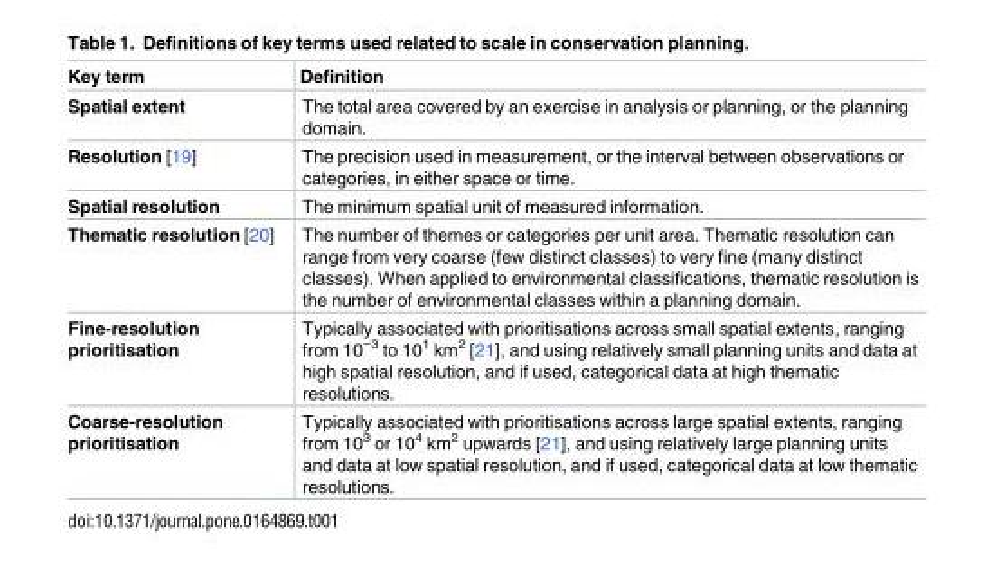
<table><thead><tr><td>Key term</td><td>Definition</td></tr></thead><tbody><tr><td>Spatial extent</td><td>The total area covered by an exercise in analysis or planning, or the planning domain.</td></tr><tr><td>Resolution [19]</td><td>The precision used in measurement, or the interval between observations or categories, in either space or time.</td></tr><tr><td>Spatial resolution</td><td>The minimum spatial unit of measured information.</td></tr><tr><td>Thematic resolution [20]</td><td>The number of themes or categories per unit area. Thematic resolution can range from very coarse (few distinct classes) to very fine (many distinct classes). When applied to environmental classifications, thematic resolution is the number of environmental classes within a planning domain.</td></tr><tr><td>Fine-resolution prioritisation</td><td>Typically associated with prioritisations across small spatial extents, ranging from 10<sup>−3</sup> to 10<sup>1</sup> km<sup>2</sup> [21], and using relatively small planning units and data at high spatial resolution, and if used, categorical data at high thematic resolutions.</td></tr><tr><td>Coarse-resolution prioritisation</td><td>Typically associated with prioritisations across large spatial extents, ranging from 10<sup>3</sup> or 10<sup>4</sup> km<sup>2</sup> upwards [21], and using relatively large planning units and data at low spatial resolution, and if used, categorical data at low thematic resolutions.</td></tr></tbody></table>